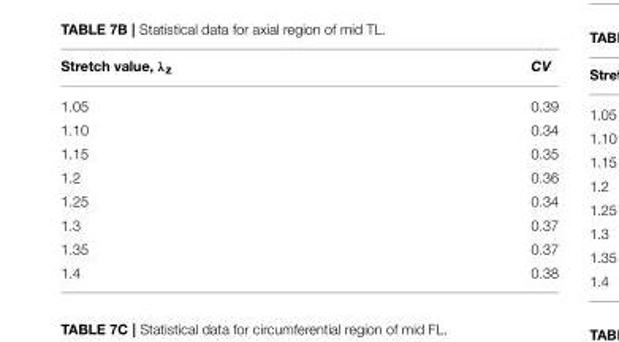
<table><thead><tr><td>Stretch value, λ<sub>z</sub></td><td>CV</td></tr></thead><tbody><tr><td>1.05</td><td>0.39</td></tr><tr><td>1.10</td><td>0.34</td></tr><tr><td>1.15</td><td>0.35</td></tr><tr><td>1.2</td><td>0.36</td></tr><tr><td>1.25</td><td>0.34</td></tr><tr><td>1.3</td><td>0.37</td></tr><tr><td>1.35</td><td>0.37</td></tr><tr><td>1.4</td><td>0.38</td></tr></tbody></table>